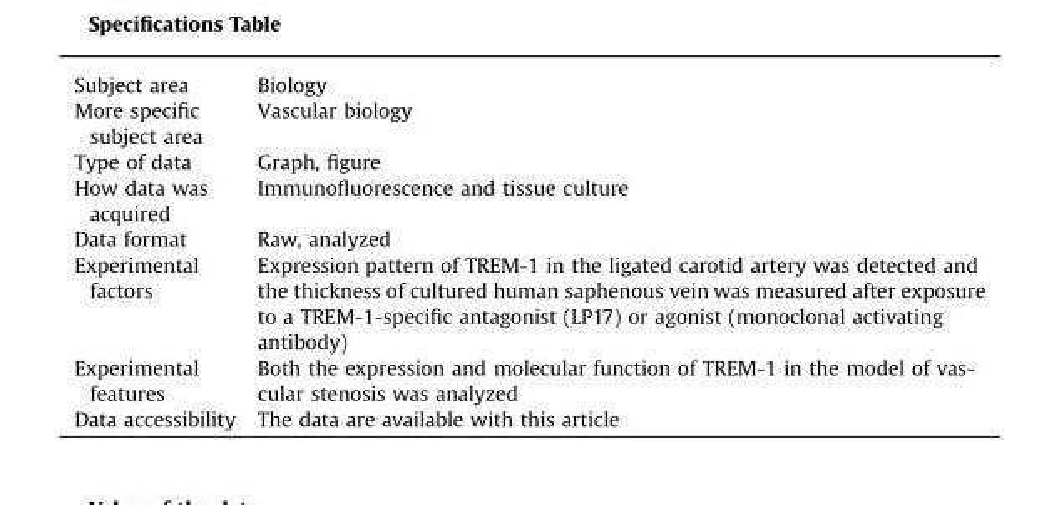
<table><tbody><tr><td>Subject area</td><td>Biology</td></tr><tr><td>More specific subject area</td><td>Vascular biology</td></tr><tr><td>Type of data</td><td>Graph, figure</td></tr><tr><td>How data was acquired</td><td>Immunofluorescence and tissue culture</td></tr><tr><td>Data format</td><td>Raw, analyzed</td></tr><tr><td>Experimental factors</td><td>Expression pattern of TREM-1 in the ligated carotid artery was detected and the thickness of cultured human saphenous vein was measured after exposure to a TREM-1-specific antagonist (LP17) or agonist (monoclonal activating antibody)</td></tr><tr><td>Experimental features</td><td>Both the expression and molecular function of TREM-1 in the model of vas- cular stenosis was analyzed</td></tr><tr><td>Data accessibility</td><td>The data are available with this article</td></tr></tbody></table>